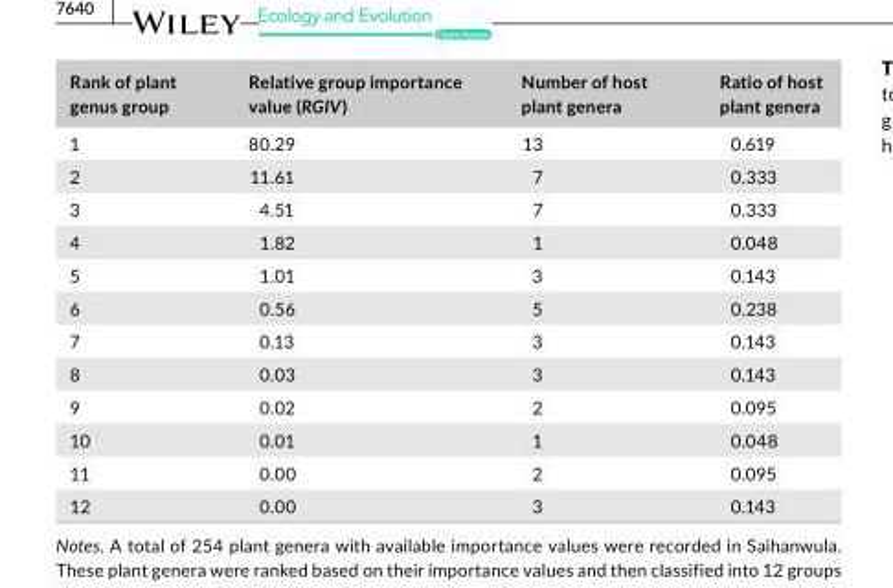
<table><thead><tr><td>Rank of plant genus group</td><td>Relative group importance value (RGIV)</td><td>Number of host plant genera</td><td>Ratio of host plant genera</td></tr></thead><tbody><tr><td>1</td><td>80.29</td><td>13</td><td>0.619</td></tr><tr><td>2</td><td>11.61</td><td>7</td><td>0.333</td></tr><tr><td>3</td><td>4.51</td><td>7</td><td>0.333</td></tr><tr><td>4</td><td>1.82</td><td>1</td><td>0.048</td></tr><tr><td>5</td><td>1.01</td><td>3</td><td>0.143</td></tr><tr><td>6</td><td>0.56</td><td>5</td><td>0.238</td></tr><tr><td>7</td><td>0.13</td><td>3</td><td>0.143</td></tr><tr><td>8</td><td>0.03</td><td>3</td><td>0.143</td></tr><tr><td>9</td><td>0.02</td><td>2</td><td>0.095</td></tr><tr><td>10</td><td>0.01</td><td>1</td><td>0.048</td></tr><tr><td>11</td><td>0.00</td><td>2</td><td>0.095</td></tr><tr><td>12</td><td>0.00</td><td>3</td><td>0.143</td></tr></tbody></table>